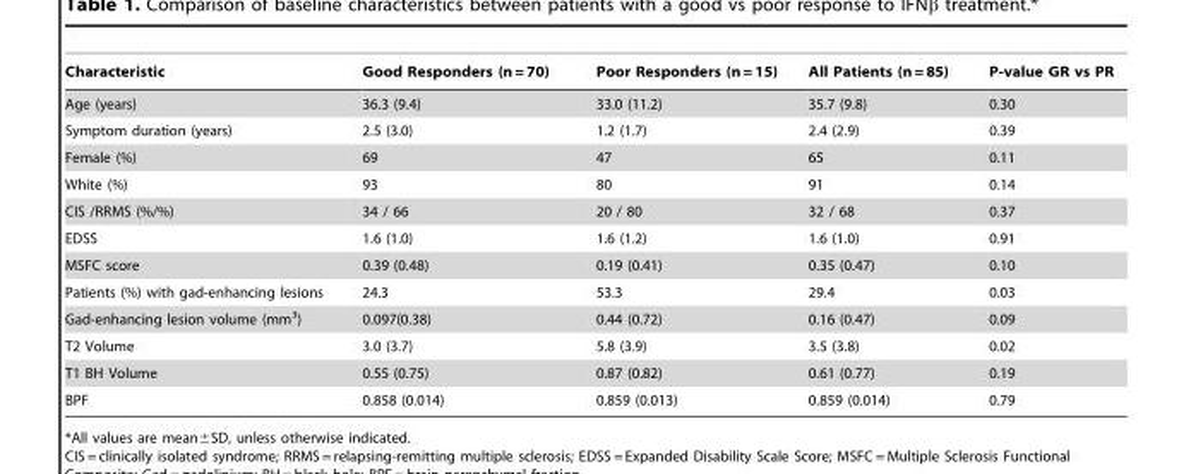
<table><thead><tr><td>Characteristic</td><td>Good Responders (n = 70)</td><td>Poor Responders (n = 15)</td><td>All Patients (n = 85)</td><td>P-value GR vs PR</td></tr></thead><tbody><tr><td>Age (years)</td><td>36.3 (9.4)</td><td>33.0 (11.2)</td><td>35.7 (9.8)</td><td>0.30</td></tr><tr><td>Symptom duration (years)</td><td>2.5 (3.0)</td><td>1.2 (1.7)</td><td>2.4 (2.9)</td><td>0.39</td></tr><tr><td>Female (%)</td><td>69</td><td>47</td><td>65</td><td>0.11</td></tr><tr><td>White (%)</td><td>93</td><td>80</td><td>91</td><td>0.14</td></tr><tr><td>CIS /RRMS (%/%)</td><td>34 / 66</td><td>20 / 80</td><td>32 / 68</td><td>0.37</td></tr><tr><td>EDSS</td><td>1.6 (1.0)</td><td>1.6 (1.2)</td><td>1.6 (1.0)</td><td>0.91</td></tr><tr><td>MSFC score</td><td>0.39 (0.48)</td><td>0.19 (0.41)</td><td>0.35 (0.47)</td><td>0.10</td></tr><tr><td>Patients (%) with gad-enhancing lesions</td><td>24.3</td><td>53.3</td><td>29.4</td><td>0.03</td></tr><tr><td>Gad-enhancing lesion volume (mm<sup>3</sup>)</td><td>0.097(0.38)</td><td>0.44 (0.72)</td><td>0.16 (0.47)</td><td>0.09</td></tr><tr><td>T2 Volume</td><td>3.0 (3.7)</td><td>5.8 (3.9)</td><td>3.5 (3.8)</td><td>0.02</td></tr><tr><td>T1 BH Volume</td><td>0.55 (0.75)</td><td>0.87 (0.82)</td><td>0.61 (0.77)</td><td>0.19</td></tr><tr><td>BPF</td><td>0.858 (0.014)</td><td>0.859 (0.013)</td><td>0.859 (0.014)</td><td>0.79</td></tr></tbody></table>